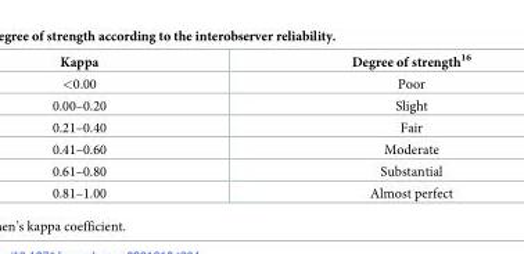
<table><thead><tr><td>Kappa</td><td>Degree of strength<sup>16</sup></td></tr></thead><tbody><tr><td>&lt;0.00</td><td>Poor</td></tr><tr><td>0.00–0.20</td><td>Slight</td></tr><tr><td>0.21–0.40</td><td>Fair</td></tr><tr><td>0.41–0.60</td><td>Moderate</td></tr><tr><td>0.61–0.80</td><td>Substantial</td></tr><tr><td>0.81–1.00</td><td>Almost perfect</td></tr></tbody></table>